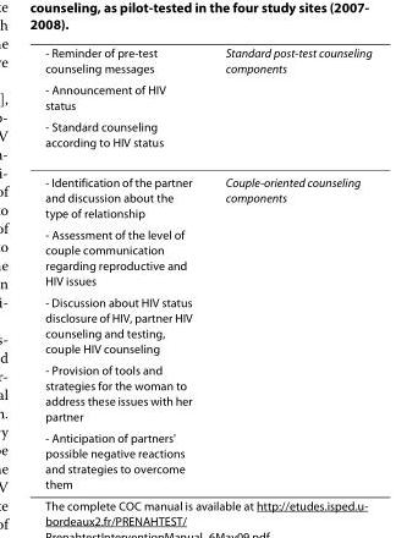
<table><thead><tr><td rowspan="3">- Reminder of pre-test counseling messages - Announcement of HIV status - Standard counseling according to HIV status</td><td rowspan="3">Standard post-test counseling components</td></tr><tr></tr><tr></tr></thead><tbody><tr><td>- Identification of the partner and discussion about the type of relationship</td><td>Couple-oriented counseling components</td></tr><tr><td colspan="2">- Assessment of the level of couple communication regarding reproductive and HIV issues</td></tr><tr><td colspan="2">- Discussion about HIV status disclosure of HIV, partner HIV counseling and testing, couple HIV counseling</td></tr><tr><td colspan="2">- Provision of tools and strategies for the woman to address these issues with her partner</td></tr><tr><td>- Anticipation of partners&#x27; possible negative reactions and strategies to overcome them</td><td></td></tr></tbody></table>